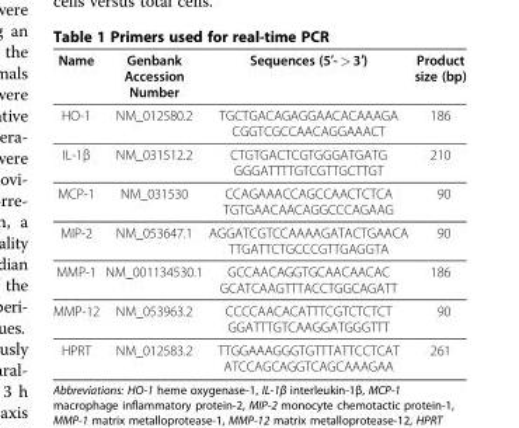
<table><thead><tr><td>Name</td><td>Genbank Accession Number</td><td>Sequences (5′- &gt; 3′)</td><td>Product size (bp)</td></tr></thead><tbody><tr><td rowspan="2">HO-1</td><td rowspan="2">NM_012580.2</td><td>TGCTGACAGAGGAACACAAAGA</td><td rowspan="2">186</td></tr><tr><td>CGGTCGCCAACAGGAAACT</td></tr><tr><td rowspan="2">IL-1β</td><td rowspan="2">NM_031512.2</td><td>CTGTGACTCGTGGGATGATG</td><td rowspan="2">210</td></tr><tr><td>GGGATTTTGTCGTTGCTTGT</td></tr><tr><td rowspan="2">MCP-1</td><td rowspan="2">NM_031530</td><td>CCAGAAACCAGCCAACTCTCA</td><td rowspan="2">90</td></tr><tr><td>TGTGAACAACAGGCCCAGAAG</td></tr><tr><td rowspan="2">MIP-2</td><td rowspan="2">NM_053647.1</td><td>AGGATCGTCCAAAAGATACTGAACA</td><td rowspan="2">90</td></tr><tr><td>TTGATTCTGCCCGTTGAGGTA</td></tr><tr><td rowspan="2">MMP-1</td><td rowspan="2">NM_001134530.1</td><td>GCCAACAGGTGCAACAACAC</td><td rowspan="2">186</td></tr><tr><td>GCATCAAGTTTACCTGGCAGATT</td></tr><tr><td rowspan="2">MMP-12</td><td rowspan="2">NM_053963.2</td><td>CCCCAACACATTTCGTCTCTCT</td><td rowspan="2">90</td></tr><tr><td>GGATTTGTCAAGGATGGGTTT</td></tr><tr><td rowspan="2">HPRT</td><td rowspan="2">NM_012583.2</td><td>TTGGAAAGGGTGTTTATTCCTCAT</td><td rowspan="2">261</td></tr><tr><td>ATCCAGCAGGTCAGCAAAGAA</td></tr></tbody></table>